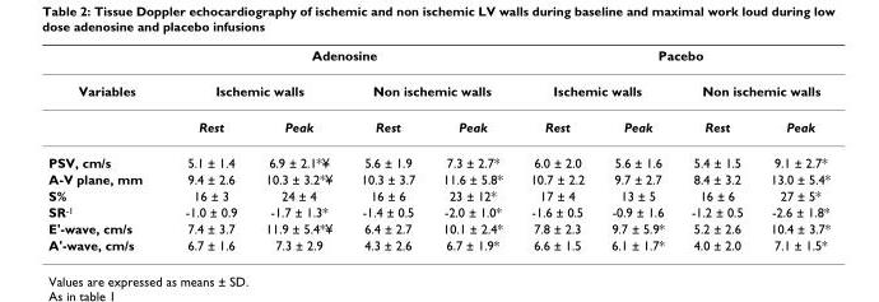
<table><thead><tr><td rowspan="3">Variables</td><td colspan="4">Adenosine</td><td colspan="4">Pacebo</td></tr><tr><td colspan="2">Ischemic walls</td><td colspan="2">Non ischemic walls</td><td colspan="2">Ischemic walls</td><td colspan="2">Non ischemic walls</td></tr><tr><td>Rest</td><td>Peak</td><td>Rest</td><td>Peak</td><td>Rest</td><td>Peak</td><td>Rest</td><td>Peak</td></tr></thead><tbody><tr><td>PSV, cm/s</td><td>5.1 ± 1.4</td><td>6.9 ± 2.1*¥</td><td>5.6 ± 1.9</td><td>7.3 ± 2.7*</td><td>6.0 ± 2.0</td><td>5.6 ± 1.6</td><td>5.4 ± 1.5</td><td>9.1 ± 2.7*</td></tr><tr><td>A-V plane, mm</td><td>9.4 ± 2.6</td><td>10.3 ± 3.2*¥</td><td>10.3 ± 3.7</td><td>11.6 ± 5.8*</td><td>10.7 ± 2.2</td><td>9.7 ± 2.7</td><td>8.4 ± 3.2</td><td>13.0 ± 5.4*</td></tr><tr><td>S%</td><td>16 ± 3</td><td>24 ± 4</td><td>16 ± 6</td><td>23 ± 12*</td><td>17 ± 4</td><td>13 ± 5</td><td>16 ± 6</td><td>27 ± 5*</td></tr><tr><td>SR<sup>-1</sup></td><td>-1.0 ± 0.9</td><td>-1.7 ± 1.3*</td><td>-1.4 ± 0.5</td><td>-2.0 ± 1.0*</td><td>-1.6 ± 0.5</td><td>-0.9 ± 1.6</td><td>-1.2 ± 0.5</td><td>-2.6 ± 1.8*</td></tr><tr><td>E&#x27;-wave, cm/s</td><td>7.4 ± 3.7</td><td>11.9 ± 5.4*¥</td><td>6.4 ± 2.7</td><td>10.1 ± 2.4*</td><td>7.8 ± 2.3</td><td>9.7 ± 5.9*</td><td>5.2 ± 2.6</td><td>10.4 ± 3.7*</td></tr><tr><td>A&#x27;-wave, cm/s</td><td>6.7 ± 1.6</td><td>7.3 ± 2.9</td><td>4.3 ± 2.6</td><td>6.7 ± 1.9*</td><td>6.6 ± 1.5</td><td>6.1 ± 1.7*</td><td>4.0 ± 2.0</td><td>7.1 ± 1.5*</td></tr></tbody></table>